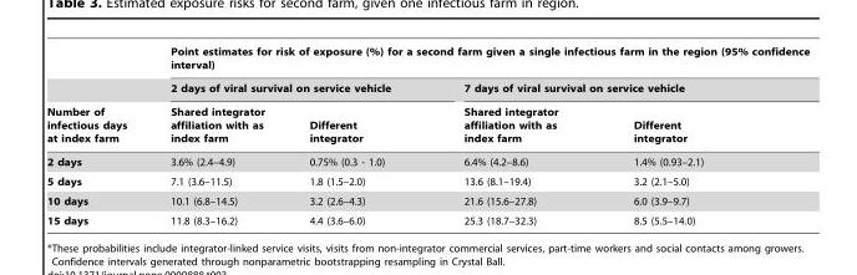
<table><thead><tr><td rowspan="3">Number of infectious days at index farm</td><td colspan="4">Point estimates for risk of exposure (%) for a second farm given a single infectious farm in the region (95% confidence interval)</td></tr><tr><td colspan="2">2 days of viral survival on service vehicle</td><td colspan="2">7 days of viral survival on service vehicle</td></tr><tr><td>Shared integrator affiliation with as index farm</td><td>Different integrator</td><td>Shared integrator affiliation with as index farm</td><td>Different integrator</td></tr></thead><tbody><tr><td>2 days</td><td>3.6% (2.4–4.9)</td><td>0.75% (0.3 - 1.0)</td><td>6.4% (4.2–8.6)</td><td>1.4% (0.93–2.1)</td></tr><tr><td>5 days</td><td>7.1 (3.6–11.5)</td><td>1.8 (1.5–2.0)</td><td>13.6 (8.1–19.4)</td><td>3.2 (2.1–5.0)</td></tr><tr><td>10 days</td><td>10.1 (6.8–14.5)</td><td>3.2 (2.6–4.3)</td><td>21.6 (15.6–27.8)</td><td>6.0 (3.9–9.7)</td></tr><tr><td>15 days</td><td>11.8 (8.3–16.2)</td><td>4.4 (3.6–6.0)</td><td>25.3 (18.7–32.3)</td><td>8.5 (5.5–14.0)</td></tr></tbody></table>